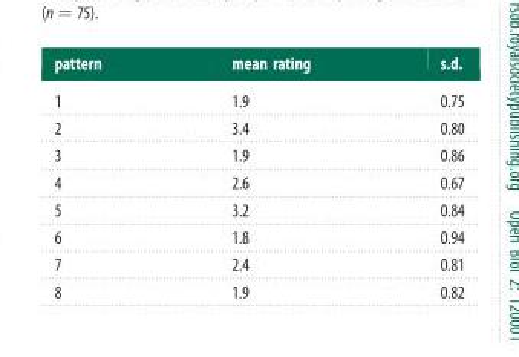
<table><thead><tr><td>pattern</td><td>mean rating</td><td>s.d.</td></tr></thead><tbody><tr><td>1</td><td>1.9</td><td>0.75</td></tr><tr><td>2</td><td>3.4</td><td>0.80</td></tr><tr><td>3</td><td>1.9</td><td>0.86</td></tr><tr><td>4</td><td>2.6</td><td>0.67</td></tr><tr><td>5</td><td>3.2</td><td>0.84</td></tr><tr><td>6</td><td>1.8</td><td>0.94</td></tr><tr><td>7</td><td>2.4</td><td>0.81</td></tr><tr><td>8</td><td>1.9</td><td>0.82</td></tr></tbody></table>